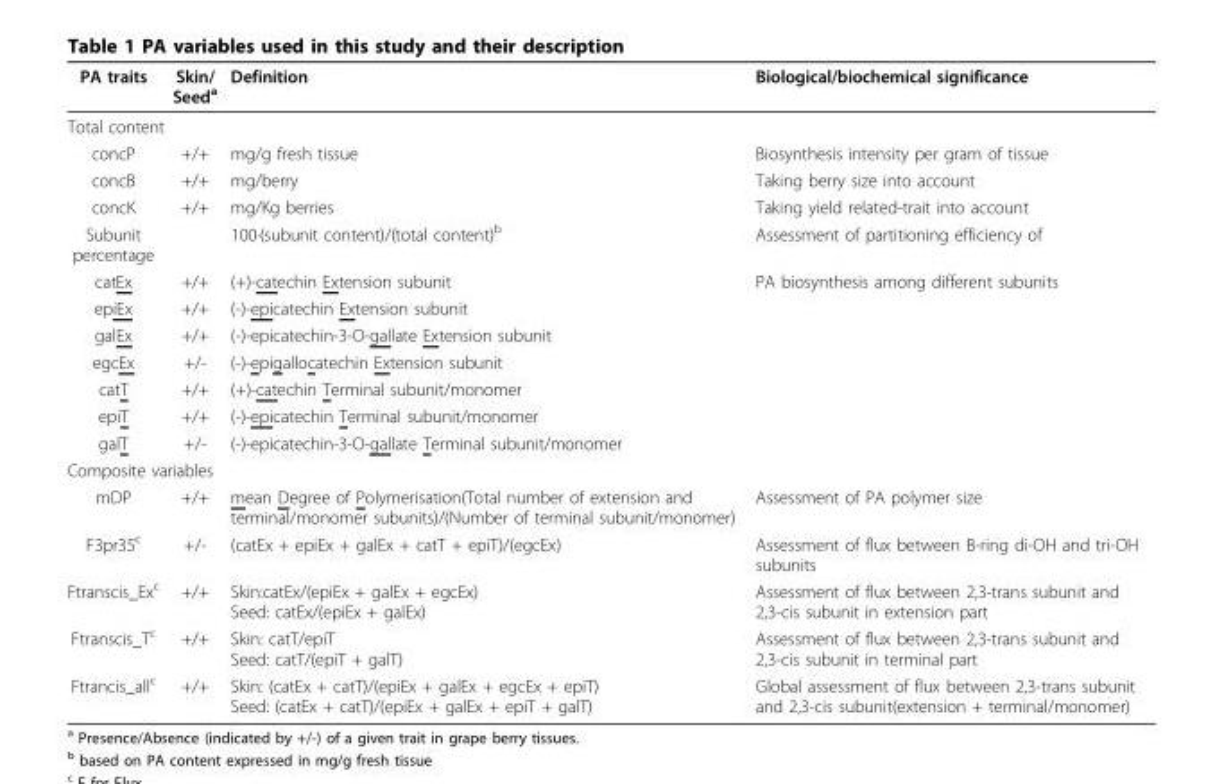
<table><thead><tr><td>PA traits</td><td>Skin/ Seed<sup>a</sup></td><td>Definition</td><td>Biological/biochemical significance</td></tr></thead><tbody><tr><td colspan="4">Total content</td></tr><tr><td>concP</td><td>+/+</td><td>mg/g fresh tissue</td><td>Biosynthesis intensity per gram of tissue</td></tr><tr><td>concB</td><td>+/+</td><td>mg/berry</td><td>Taking berry size into account</td></tr><tr><td>concK</td><td>+/+</td><td>mg/Kg berries</td><td>Taking yield related-trait into account</td></tr><tr><td>Subunit percentage</td><td></td><td>100·(subunit content)/(total content)<sup>b</sup></td><td>Assessment of partitioning efficiency of</td></tr><tr><td>catEx</td><td>+/+</td><td>(+)-catechin Extension subunit</td><td>PA biosynthesis among different subunits</td></tr><tr><td>epiEx</td><td>+/+</td><td>(-)-epicatechin Extension subunit</td><td></td></tr><tr><td>galEx</td><td>+/+</td><td>(-)-epicatechin-3-O-gallate Extension subunit</td><td></td></tr><tr><td>egcEx</td><td>+/-</td><td>(-)-epigallocatechin Extension subunit</td><td></td></tr><tr><td>catT</td><td>+/+</td><td>(+)-catechin Terminal subunit/monomer</td><td></td></tr><tr><td>epiT</td><td>+/+</td><td>(-)-epicatechin Terminal subunit/monomer</td><td></td></tr><tr><td>galT</td><td>+/-</td><td>(-)-epicatechin-3-O-gallate Terminal subunit/monomer</td><td></td></tr><tr><td colspan="4">Composite variables</td></tr><tr><td>mDP</td><td>+/+</td><td>mean Degree of Polymerisation(Total number of extension and terminal/monomer subunits)/(Number of terminal subunit/monomer)</td><td>Assessment of PA polymer size</td></tr><tr><td>F3pr35<sup>c</sup></td><td>+/-</td><td>(catEx + epiEx + galEx + catT + epiT)/(egcEx)</td><td>Assessment of flux between B-ring di-OH and tri-OH subunits</td></tr><tr><td>Ftranscis_Ex<sup>c</sup></td><td>+/+</td><td>Skin:catEx/(epiEx + galEx + egcEx) Seed: catEx/(epiEx + galEx)</td><td>Assessment of flux between 2,3-trans subunit and 2,3-cis subunit in extension part</td></tr><tr><td>Ftranscis_T<sup>c</sup></td><td>+/+</td><td>Skin: catT/epiT Seed: catT/(epiT + galT)</td><td>Assessment of flux between 2,3-trans subunit and 2,3-cis subunit in terminal part</td></tr><tr><td>Ftrancis_all<sup>c</sup></td><td>+/+</td><td>Skin: (catEx + catT)/(epiEx + galEx + egcEx + epiT) Seed: (catEx + catT)/(epiEx + galEx + epiT + galT)</td><td>Global assessment of flux between 2,3-trans subunit and 2,3-cis subunit(extension + terminal/monomer)</td></tr></tbody></table>